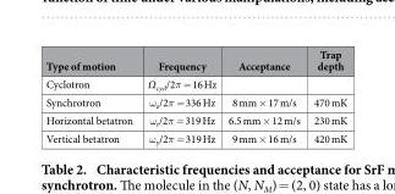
<table><thead><tr><td>Type of motion</td><td>Frequency</td><td>Acceptance</td><td>Trap depth</td></tr></thead><tbody><tr><td>Cyclotron</td><td>Ω<sub>cycl</sub>/2π = 16 Hz</td><td></td><td></td></tr><tr><td>Synchrotron</td><td>ω<sub>z</sub>/2π = 336 Hz</td><td>8 mm × 17 m/s</td><td>470 mK</td></tr><tr><td>Horizontal betatron</td><td>ω<sub>r</sub>/2π = 319 Hz</td><td>6.5 mm × 12 m/s</td><td>230 mK</td></tr><tr><td>Vertical betatron</td><td>ω<sub>y</sub>/2π = 319 Hz</td><td>9 mm × 16 m/s</td><td>420 mK</td></tr></tbody></table>